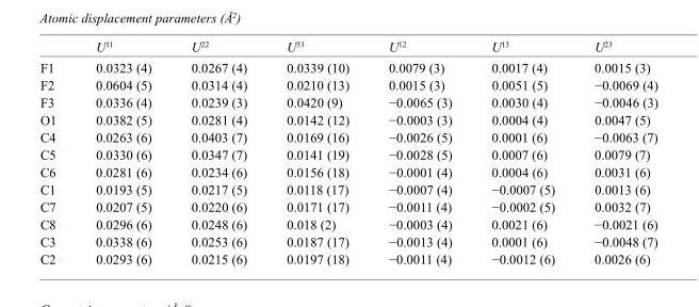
<table><thead><tr><td></td><td>U<sup>11</sup></td><td>U<sup>22</sup></td><td>U<sup>33</sup></td><td>U<sup>12</sup></td><td>U<sup>13</sup></td><td>U<sup>23</sup></td></tr></thead><tbody><tr><td>F1</td><td>0.0323 (4)</td><td>0.0267 (4)</td><td>0.0339 (10)</td><td>0.0079 (3)</td><td>0.0017 (4)</td><td>0.0015 (3)</td></tr><tr><td>F2</td><td>0.0604 (5)</td><td>0.0314 (4)</td><td>0.0210 (13)</td><td>0.0015 (3)</td><td>0.0051 (5)</td><td>−0.0069 (4)</td></tr><tr><td>F3</td><td>0.0336 (4)</td><td>0.0239 (3)</td><td>0.0420 (9)</td><td>−0.0065 (3)</td><td>0.0030 (4)</td><td>−0.0046 (3)</td></tr><tr><td>O1</td><td>0.0382 (5)</td><td>0.0281 (4)</td><td>0.0142 (12)</td><td>−0.0003 (3)</td><td>0.0004 (4)</td><td>0.0047 (5)</td></tr><tr><td>C4</td><td>0.0263 (6)</td><td>0.0403 (7)</td><td>0.0169 (16)</td><td>−0.0026 (5)</td><td>0.0001 (6)</td><td>−0.0063 (7)</td></tr><tr><td>C5</td><td>0.0330 (6)</td><td>0.0347 (7)</td><td>0.0141 (19)</td><td>−0.0028 (5)</td><td>0.0007 (6)</td><td>0.0079 (7)</td></tr><tr><td>C6</td><td>0.0281 (6)</td><td>0.0234 (6)</td><td>0.0156 (18)</td><td>−0.0001 (4)</td><td>0.0004 (6)</td><td>0.0031 (6)</td></tr><tr><td>C1</td><td>0.0193 (5)</td><td>0.0217 (5)</td><td>0.0118 (17)</td><td>−0.0007 (4)</td><td>−0.0007 (5)</td><td>0.0013 (6)</td></tr><tr><td>C7</td><td>0.0207 (5)</td><td>0.0220 (6)</td><td>0.0171 (17)</td><td>−0.0011 (4)</td><td>−0.0002 (5)</td><td>0.0032 (7)</td></tr><tr><td>C8</td><td>0.0296 (6)</td><td>0.0248 (6)</td><td>0.018 (2)</td><td>−0.0003 (4)</td><td>0.0021 (6)</td><td>−0.0021 (6)</td></tr><tr><td>C3</td><td>0.0338 (6)</td><td>0.0253 (6)</td><td>0.0187 (17)</td><td>−0.0013 (4)</td><td>0.0001 (6)</td><td>−0.0048 (7)</td></tr><tr><td>C2</td><td>0.0293 (6)</td><td>0.0215 (6)</td><td>0.0197 (18)</td><td>−0.0011 (4)</td><td>−0.0012 (6)</td><td>0.0026 (6)</td></tr></tbody></table>